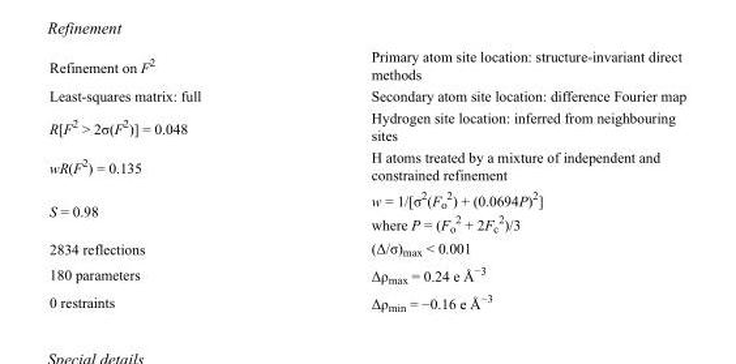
<table><tbody><tr><td>Refinement on F<sup>2</sup></td><td>Primary atom site location: structure-invariant direct methods</td></tr><tr><td>Least-squares matrix: full</td><td>Secondary atom site location: difference Fourier map</td></tr><tr><td>R[F<sup>2</sup> &gt; 2σ(F<sup>2</sup>)] = 0.048</td><td>Hydrogen site location: inferred from neighbouring sites</td></tr><tr><td>wR(F<sup>2</sup>) = 0.135</td><td>H atoms treated by a mixture of independent and constrained refinement</td></tr><tr><td>S = 0.98</td><td>w = 1/[σ<sup>2</sup>(F<sub>o</sub> <sup>2</sup>) + (0.0694P)<sup>2</sup>] where P = (F<sub>o</sub> <sup>2</sup> + 2F<sub>c</sub> <sup>2</sup>)/3</td></tr><tr><td>2834 reflections</td><td>(Δ/σ)<sub>max</sub> &lt; 0.001</td></tr><tr><td>180 parameters</td><td>Δρ<sub>max</sub> = 0.24 e Å<sup>−3</sup></td></tr><tr><td>0 restraints</td><td>Δρ<sub>min</sub> = −0.16 e Å<sup>−3</sup></td></tr></tbody></table>